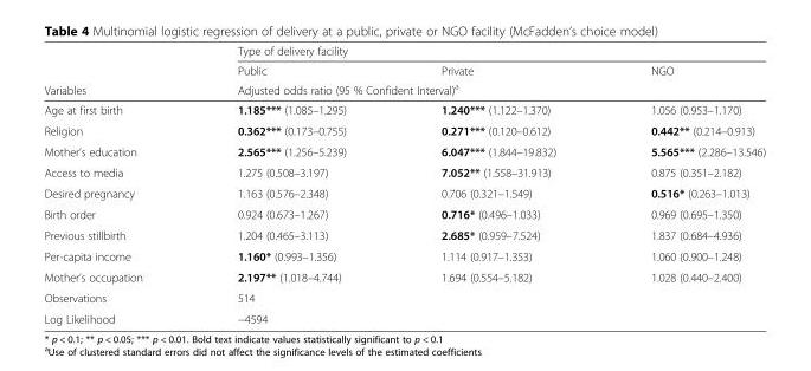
<table><thead><tr><td rowspan="3">Variables</td><td colspan="3">Type of delivery facility</td></tr><tr><td>Public</td><td>Private</td><td>NGO</td></tr><tr><td colspan="3">Adjusted odds ratio (95 % Confident Interval)<sup>a</sup></td></tr></thead><tbody><tr><td>Age at first birth</td><td>1.185*** (1.085–1.295)</td><td>1.240*** (1.122–1.370)</td><td>1.056 (0.953–1.170)</td></tr><tr><td>Religion</td><td>0.362*** (0.173–0.755)</td><td>0.271*** (0.120–0.612)</td><td>0.442** (0.214–0.913)</td></tr><tr><td>Mother’s education</td><td>2.565*** (1.256–5.239)</td><td>6.047*** (1.844–19.832)</td><td>5.565*** (2.286–13.546)</td></tr><tr><td>Access to media</td><td>1.275 (0.508–3.197)</td><td>7.052** (1.558–31.913)</td><td>0.875 (0.351–2.182)</td></tr><tr><td>Desired pregnancy</td><td>1.163 (0.576–2.348)</td><td>0.706 (0.321–1.549)</td><td>0.516* (0.263–1.013)</td></tr><tr><td>Birth order</td><td>0.924 (0.673–1.267)</td><td>0.716* (0.496–1.033)</td><td>0.969 (0.695–1.350)</td></tr><tr><td>Previous stillbirth</td><td>1.204 (0.465–3.113)</td><td>2.685* (0.959–7.524)</td><td>1.837 (0.684–4.936)</td></tr><tr><td>Per-capita income</td><td>1.160* (0.993–1.356)</td><td>1.114 (0.917–1.353)</td><td>1.060 (0.900–1.248)</td></tr><tr><td>Mother’s occupation</td><td>2.197** (1.018–4.744)</td><td>1.694 (0.554–5.182)</td><td>1.028 (0.440–2.400)</td></tr><tr><td>Observations</td><td colspan="3">514</td></tr><tr><td>Log Likelihood</td><td colspan="3">−4594</td></tr></tbody></table>